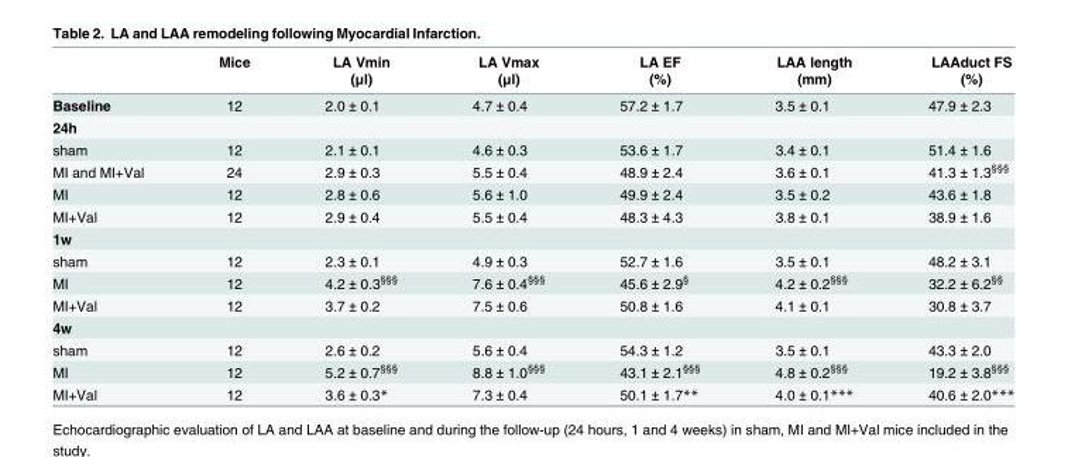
<table><thead><tr><td rowspan="2"></td><td rowspan="2">Mice</td><td rowspan="2">LA Vmin (μl)</td><td rowspan="2">LA Vmax (μl)</td><td rowspan="2">LA EF (%)</td><td rowspan="2">LAA length (mm)</td><td rowspan="2">LAAduct FS (%)</td></tr><tr></tr></thead><tbody><tr><td>Baseline</td><td>12</td><td>2.0 ± 0.1</td><td>4.7 ± 0.4</td><td>57.2 ± 1.7</td><td>3.5 ± 0.1</td><td>47.9 ± 2.3</td></tr><tr><td colspan="7">24h</td></tr><tr><td>sham</td><td>12</td><td>2.1 ± 0.1</td><td>4.6 ± 0.3</td><td>53.6 ± 1.7</td><td>3.4 ± 0.1</td><td>51.4 ± 1.6</td></tr><tr><td>MI and MI+Val</td><td>24</td><td>2.9 ± 0.3</td><td>5.5 ± 0.4</td><td>48.9 ± 2.4</td><td>3.6 ± 0.1</td><td>41.3 ± 1.3<sup>§§§</sup></td></tr><tr><td>MI</td><td>12</td><td>2.8 ± 0.6</td><td>5.6 ± 1.0</td><td>49.9 ± 2.4</td><td>3.5 ± 0.2</td><td>43.6 ± 1.8</td></tr><tr><td>MI+Val</td><td>12</td><td>2.9 ± 0.4</td><td>5.5 ± 0.4</td><td>48.3 ± 4.3</td><td>3.8 ± 0.1</td><td>38.9 ± 1.6</td></tr><tr><td colspan="7">1w</td></tr><tr><td>sham</td><td>12</td><td>2.3 ± 0.1</td><td>4.9 ± 0.3</td><td>52.7 ± 1.6</td><td>3.5 ± 0.1</td><td>48.2 ± 3.1</td></tr><tr><td>MI</td><td>12</td><td>4.2 ± 0.3<sup>§§§</sup></td><td>7.6 ± 0.4<sup>§§§</sup></td><td>45.6 ± 2.9<sup>§</sup></td><td>4.2 ± 0.2<sup>§§§</sup></td><td>32.2 ± 6.2<sup>§§</sup></td></tr><tr><td>MI+Val</td><td>12</td><td>3.7 ± 0.2</td><td>7.5 ± 0.6</td><td>50.8 ± 1.6</td><td>4.1 ± 0.1</td><td>30.8 ± 3.7</td></tr><tr><td colspan="7">4w</td></tr><tr><td>sham</td><td>12</td><td>2.6 ± 0.2</td><td>5.6 ± 0.4</td><td>54.3 ± 1.2</td><td>3.5 ± 0.1</td><td>43.3 ± 2.0</td></tr><tr><td>MI</td><td>12</td><td>5.2 ± 0.7<sup>§§§</sup></td><td>8.8 ± 1.0<sup>§§§</sup></td><td>43.1 ± 2.1<sup>§§§</sup></td><td>4.8 ± 0.2<sup>§§§</sup></td><td>19.2 ± 3.8<sup>§§§</sup></td></tr><tr><td>MI+Val</td><td>12</td><td>3.6 ± 0.3*</td><td>7.3 ± 0.4</td><td>50.1 ± 1.7**</td><td>4.0 ± 0.1***</td><td>40.6 ± 2.0***</td></tr></tbody></table>